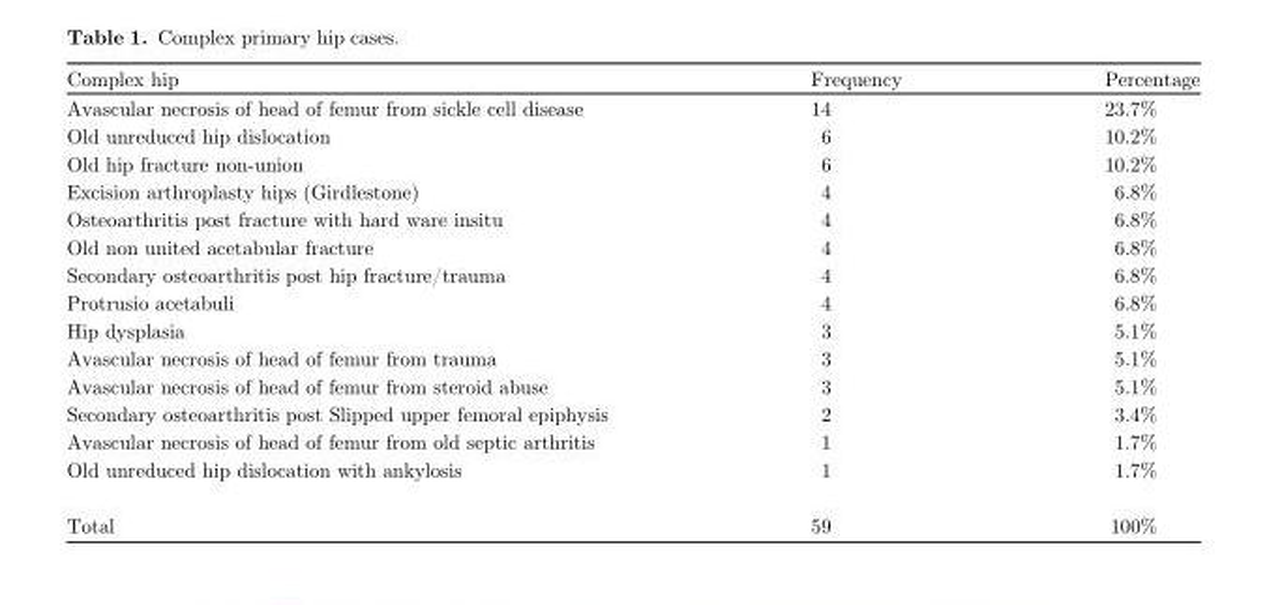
<table><thead><tr><td>Complex hip</td><td>Frequency</td><td>Percentage</td></tr></thead><tbody><tr><td>Avascular necrosis of head of femur from sickle cell disease</td><td>14</td><td>23.7%</td></tr><tr><td>Old unreduced hip dislocation</td><td>6</td><td>10.2%</td></tr><tr><td>Old hip fracture non-union</td><td>6</td><td>10.2%</td></tr><tr><td>Excision arthroplasty hips (Girdlestone)</td><td>4</td><td>6.8%</td></tr><tr><td>Osteoarthritis post fracture with hard ware insitu</td><td>4</td><td>6.8%</td></tr><tr><td>Old non united acetabular fracture</td><td>4</td><td>6.8%</td></tr><tr><td>Secondary osteoarthritis post hip fracture/trauma</td><td>4</td><td>6.8%</td></tr><tr><td>Protrusio acetabuli</td><td>4</td><td>6.8%</td></tr><tr><td>Hip dysplasia</td><td>3</td><td>5.1%</td></tr><tr><td>Avascular necrosis of head of femur from trauma</td><td>3</td><td>5.1%</td></tr><tr><td>Avascular necrosis of head of femur from steroid abuse</td><td>3</td><td>5.1%</td></tr><tr><td>Secondary osteoarthritis post Slipped upper femoral epiphysis</td><td>2</td><td>3.4%</td></tr><tr><td>Avascular necrosis of head of femur from old septic arthritis</td><td>1</td><td>1.7%</td></tr><tr><td>Old unreduced hip dislocation with ankylosis</td><td>1</td><td>1.7%</td></tr><tr><td>Total</td><td>59</td><td>100%</td></tr></tbody></table>